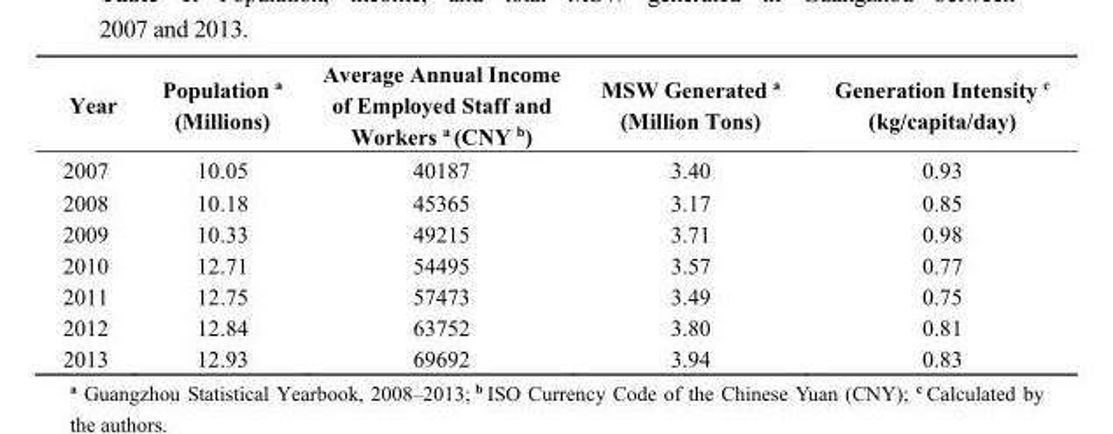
<table><thead><tr><td>Year</td><td>Population <sup>a</sup> (Millions)</td><td>Average Annual Income of Employed Staff and Workers <sup>a</sup> (CNY <sup>b</sup>)</td><td>MSW Generated <sup>a</sup> (Million Tons)</td><td>Generation Intensity <sup>c</sup> (kg/capita/day)</td></tr></thead><tbody><tr><td>2007</td><td>10.05</td><td>40187</td><td>3.40</td><td>0.93</td></tr><tr><td>2008</td><td>10.18</td><td>45365</td><td>3.17</td><td>0.85</td></tr><tr><td>2009</td><td>10.33</td><td>49215</td><td>3.71</td><td>0.98</td></tr><tr><td>2010</td><td>12.71</td><td>54495</td><td>3.57</td><td>0.77</td></tr><tr><td>2011</td><td>12.75</td><td>57473</td><td>3.49</td><td>0.75</td></tr><tr><td>2012</td><td>12.84</td><td>63752</td><td>3.80</td><td>0.81</td></tr><tr><td>2013</td><td>12.93</td><td>69692</td><td>3.94</td><td>0.83</td></tr></tbody></table>